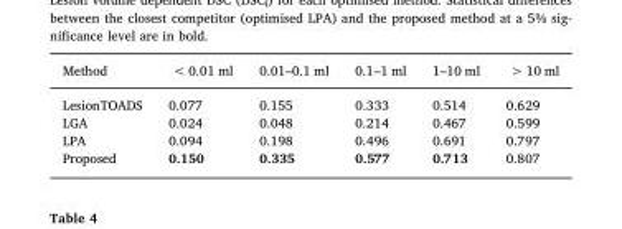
<table><thead><tr><td>Method</td><td>&lt; 0.01 ml</td><td>0.01–0.1 ml</td><td>0.1–1 ml</td><td>1–10 ml</td><td>&gt; 10 ml</td></tr></thead><tbody><tr><td>LesionTOADS</td><td>0.077</td><td>0.155</td><td>0.333</td><td>0.514</td><td>0.629</td></tr><tr><td>LGA</td><td>0.024</td><td>0.048</td><td>0.214</td><td>0.467</td><td>0.599</td></tr><tr><td>LPA</td><td>0.094</td><td>0.198</td><td>0.496</td><td>0.691</td><td>0.797</td></tr><tr><td>Proposed</td><td>0.150</td><td>0.335</td><td>0.577</td><td>0.713</td><td>0.807</td></tr></tbody></table>